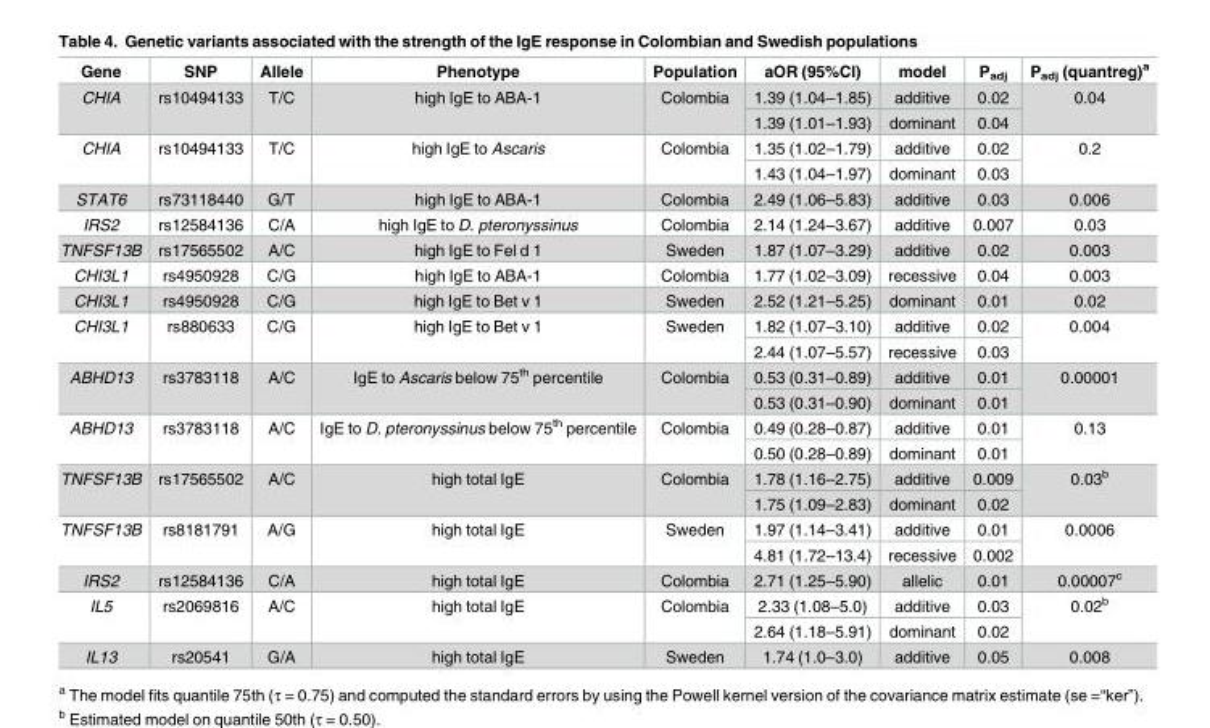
<table><thead><tr><td>Gene</td><td>SNP</td><td>Allele</td><td>Phenotype</td><td>Population</td><td>aOR (95%CI)</td><td>model</td><td>P<sub>adj</sub></td><td>P<sub>adj</sub> (quantreg)<sup>a</sup></td></tr></thead><tbody><tr><td rowspan="2">CHIA</td><td rowspan="2">rs10494133</td><td rowspan="2">T/C</td><td rowspan="2">high IgE to ABA-1</td><td rowspan="2">Colombia</td><td>1.39 (1.04–1.85)</td><td>additive</td><td>0.02</td><td rowspan="2">0.04</td></tr><tr><td>1.39 (1.01–1.93)</td><td>dominant</td><td>0.04</td></tr><tr><td rowspan="2">CHIA</td><td rowspan="2">rs10494133</td><td rowspan="2">T/C</td><td rowspan="2">high IgE to Ascaris</td><td rowspan="2">Colombia</td><td>1.35 (1.02–1.79)</td><td>additive</td><td>0.02</td><td rowspan="2">0.2</td></tr><tr><td>1.43 (1.04–1.97)</td><td>dominant</td><td>0.03</td></tr><tr><td>STAT6</td><td>rs73118440</td><td>G/T</td><td>high IgE to ABA-1</td><td>Colombia</td><td>2.49 (1.06–5.83)</td><td>additive</td><td>0.03</td><td>0.006</td></tr><tr><td>IRS2</td><td>rs12584136</td><td>C/A</td><td>high IgE to D. pteronyssinus</td><td>Colombia</td><td>2.14 (1.24–3.67)</td><td>additive</td><td>0.007</td><td>0.03</td></tr><tr><td>TNFSF13B</td><td>rs17565502</td><td>A/C</td><td>high IgE to Fel d 1</td><td>Sweden</td><td>1.87 (1.07–3.29)</td><td>additive</td><td>0.02</td><td>0.003</td></tr><tr><td>CHI3L1</td><td>rs4950928</td><td>C/G</td><td>high IgE to ABA-1</td><td>Colombia</td><td>1.77 (1.02–3.09)</td><td>recessive</td><td>0.04</td><td>0.003</td></tr><tr><td>CHI3L1</td><td>rs4950928</td><td>C/G</td><td>high IgE to Bet v 1</td><td>Sweden</td><td>2.52 (1.21–5.25)</td><td>dominant</td><td>0.01</td><td>0.02</td></tr><tr><td rowspan="2">CHI3L1</td><td rowspan="2">rs880633</td><td rowspan="2">C/G</td><td rowspan="2">high IgE to Bet v 1</td><td rowspan="2">Sweden</td><td>1.82 (1.07–3.10)</td><td>additive</td><td>0.02</td><td rowspan="2">0.004</td></tr><tr><td>2.44 (1.07–5.57)</td><td>recessive</td><td>0.03</td></tr><tr><td rowspan="2">ABHD13</td><td rowspan="2">rs3783118</td><td rowspan="2">A/C</td><td rowspan="2">IgE to Ascaris below 75<sup>th</sup> percentile</td><td rowspan="2">Colombia</td><td>0.53 (0.31–0.89)</td><td>additive</td><td>0.01</td><td rowspan="2">0.00001</td></tr><tr><td>0.53 (0.31–0.90)</td><td>dominant</td><td>0.01</td></tr><tr><td rowspan="2">ABHD13</td><td rowspan="2">rs3783118</td><td rowspan="2">A/C</td><td rowspan="2">IgE to D. pteronyssinus below 75<sup>th</sup> percentile</td><td rowspan="2">Colombia</td><td>0.49 (0.28–0.87)</td><td>additive</td><td>0.01</td><td rowspan="2">0.13</td></tr><tr><td>0.50 (0.28–0.89)</td><td>dominant</td><td>0.01</td></tr><tr><td rowspan="2">TNFSF13B</td><td rowspan="2">rs17565502</td><td rowspan="2">A/C</td><td rowspan="2">high total IgE</td><td rowspan="2">Colombia</td><td>1.78 (1.16–2.75)</td><td>additive</td><td>0.009</td><td rowspan="2">0.03<sup>b</sup></td></tr><tr><td>1.75 (1.09–2.83)</td><td>dominant</td><td>0.02</td></tr><tr><td rowspan="2">TNFSF13B</td><td rowspan="2">rs8181791</td><td rowspan="2">A/G</td><td rowspan="2">high total IgE</td><td rowspan="2">Sweden</td><td>1.97 (1.14–3.41)</td><td>additive</td><td>0.01</td><td rowspan="2">0.0006</td></tr><tr><td>4.81 (1.72–13.4)</td><td>recessive</td><td>0.002</td></tr><tr><td>IRS2</td><td>rs12584136</td><td>C/A</td><td>high total IgE</td><td>Colombia</td><td>2.71 (1.25–5.90)</td><td>allelic</td><td>0.01</td><td>0.00007<sup>c</sup></td></tr><tr><td rowspan="2">IL5</td><td rowspan="2">rs2069816</td><td rowspan="2">A/C</td><td rowspan="2">high total IgE</td><td rowspan="2">Colombia</td><td>2.33 (1.08–5.0)</td><td>additive</td><td>0.03</td><td rowspan="2">0.02<sup>b</sup></td></tr><tr><td>2.64 (1.18–5.91)</td><td>dominant</td><td>0.02</td></tr><tr><td>IL13</td><td>rs20541</td><td>G/A</td><td>high total IgE</td><td>Sweden</td><td>1.74 (1.0–3.0)</td><td>additive</td><td>0.05</td><td>0.008</td></tr></tbody></table>